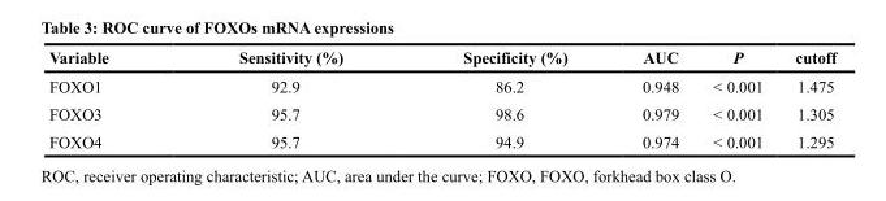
<table><thead><tr><td>Variable</td><td>Sensitivity (%)</td><td>Specificity (%)</td><td>AUC</td><td>P</td><td>cutoff</td></tr></thead><tbody><tr><td>FOXO1</td><td>92.9</td><td>86.2</td><td>0.948</td><td>&lt; 0.001</td><td>1.475</td></tr><tr><td>FOXO3</td><td>95.7</td><td>98.6</td><td>0.979</td><td>&lt; 0.001</td><td>1.305</td></tr><tr><td>FOXO4</td><td>95.7</td><td>94.9</td><td>0.974</td><td>&lt; 0.001</td><td>1.295</td></tr></tbody></table>